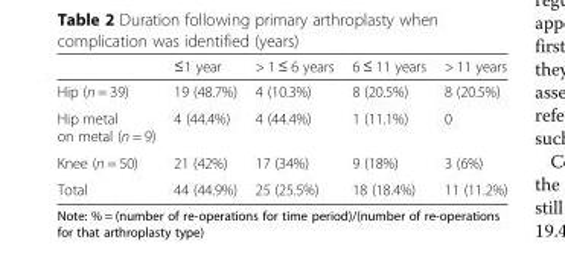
<table><thead><tr><td></td><td>≤1 year</td><td>&gt; 1 ≤ 6 years</td><td>6 ≤ 11 years</td><td>&gt; 11 years</td></tr></thead><tbody><tr><td>Hip (n = 39)</td><td>19 (48.7%)</td><td>4 (10.3%)</td><td>8 (20.5%)</td><td>8 (20.5%)</td></tr><tr><td>Hip metal on metal (n = 9)</td><td>4 (44.4%)</td><td>4 (44.4%)</td><td>1 (11.1%)</td><td>0</td></tr><tr><td>Knee (n = 50)</td><td>21 (42%)</td><td>17 (34%)</td><td>9 (18%)</td><td>3 (6%)</td></tr><tr><td>Total</td><td>44 (44.9%)</td><td>25 (25.5%)</td><td>18 (18.4%)</td><td>11 (11.2%)</td></tr></tbody></table>